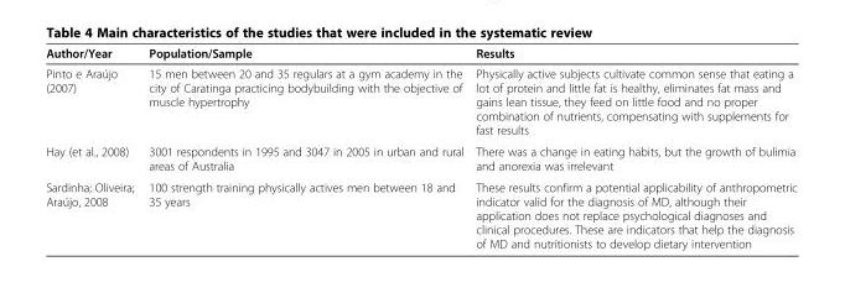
<table><thead><tr><td>Author/Year</td><td>Population/Sample</td><td>Results</td></tr></thead><tbody><tr><td>Pinto e Araújo (2007)</td><td>15 men between 20 and 35 regulars at a gym academy in the city of Caratinga practicing bodybuilding with the objective of muscle hypertrophy</td><td>Physically active subjects cultivate common sense that eating a lot of protein and little fat is healthy, eliminates fat mass and gains lean tissue, they feed on little food and no proper combination of nutrients, compensating with supplements for fast results</td></tr><tr><td>Hay (et al., 2008)</td><td>3001 respondents in 1995 and 3047 in 2005 in urban and rural areas of Australia</td><td>There was a change in eating habits, but the growth of bulimia and anorexia was irrelevant</td></tr><tr><td>Sardinha; Oliveira; Araújo, 2008</td><td>100 strength training physically actives men between 18 and 35 years</td><td>These results confirm a potential applicability of anthropometric indicator valid for the diagnosis of MD, although their application does not replace psychological diagnoses and clinical procedures. These are indicators that help the diagnosis of MD and nutritionists to develop dietary intervention</td></tr></tbody></table>